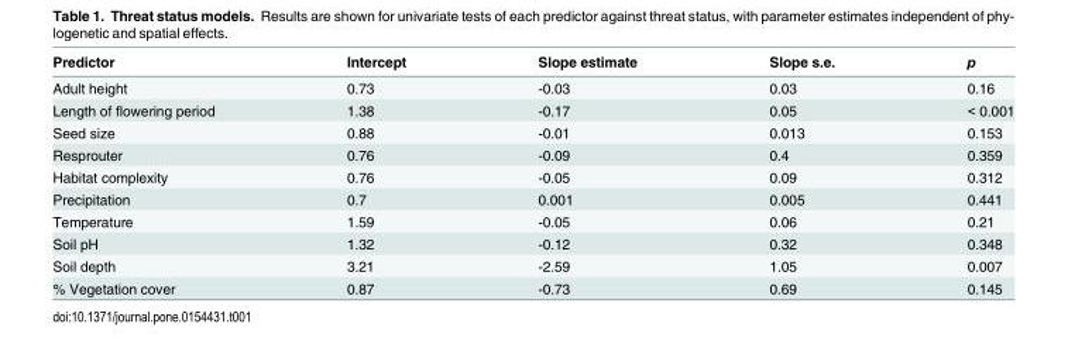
<table><thead><tr><td>Predictor</td><td>Intercept</td><td>Slope estimate</td><td>Slope s.e.</td><td>p</td></tr></thead><tbody><tr><td>Adult height</td><td>0.73</td><td>-0.03</td><td>0.03</td><td>0.16</td></tr><tr><td>Length of flowering period</td><td>1.38</td><td>-0.17</td><td>0.05</td><td>&lt; 0.001</td></tr><tr><td>Seed size</td><td>0.88</td><td>-0.01</td><td>0.013</td><td>0.153</td></tr><tr><td>Resprouter</td><td>0.76</td><td>-0.09</td><td>0.4</td><td>0.359</td></tr><tr><td>Habitat complexity</td><td>0.76</td><td>-0.05</td><td>0.09</td><td>0.312</td></tr><tr><td>Precipitation</td><td>0.7</td><td>0.001</td><td>0.005</td><td>0.441</td></tr><tr><td>Temperature</td><td>1.59</td><td>-0.05</td><td>0.06</td><td>0.21</td></tr><tr><td>Soil pH</td><td>1.32</td><td>-0.12</td><td>0.32</td><td>0.348</td></tr><tr><td>Soil depth</td><td>3.21</td><td>-2.59</td><td>1.05</td><td>0.007</td></tr><tr><td>% Vegetation cover</td><td>0.87</td><td>-0.73</td><td>0.69</td><td>0.145</td></tr></tbody></table>